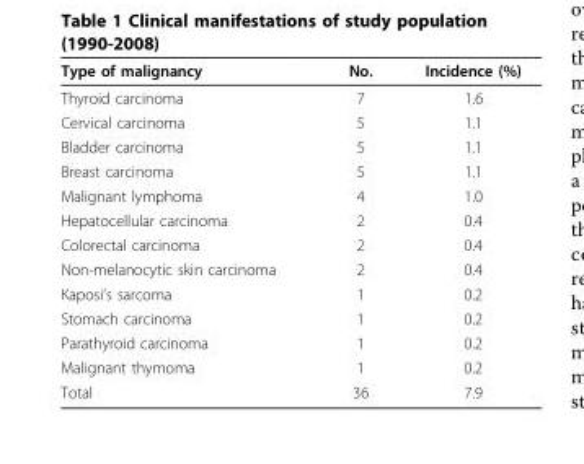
<table><thead><tr><td>Type of malignancy</td><td>No.</td><td>Incidence (%)</td></tr></thead><tbody><tr><td>Thyroid carcinoma</td><td>7</td><td>1.6</td></tr><tr><td>Cervical carcinoma</td><td>5</td><td>1.1</td></tr><tr><td>Bladder carcinoma</td><td>5</td><td>1.1</td></tr><tr><td>Breast carcinoma</td><td>5</td><td>1.1</td></tr><tr><td>Malignant lymphoma</td><td>4</td><td>1.0</td></tr><tr><td>Hepatocellular carcinoma</td><td>2</td><td>0.4</td></tr><tr><td>Colorectal carcinoma</td><td>2</td><td>0.4</td></tr><tr><td>Non-melanocytic skin carcinoma</td><td>2</td><td>0.4</td></tr><tr><td>Kaposi’s sarcoma</td><td>1</td><td>0.2</td></tr><tr><td>Stomach carcinoma</td><td>1</td><td>0.2</td></tr><tr><td>Parathyroid carcinoma</td><td>1</td><td>0.2</td></tr><tr><td>Malignant thymoma</td><td>1</td><td>0.2</td></tr><tr><td>Total</td><td>36</td><td>7.9</td></tr></tbody></table>